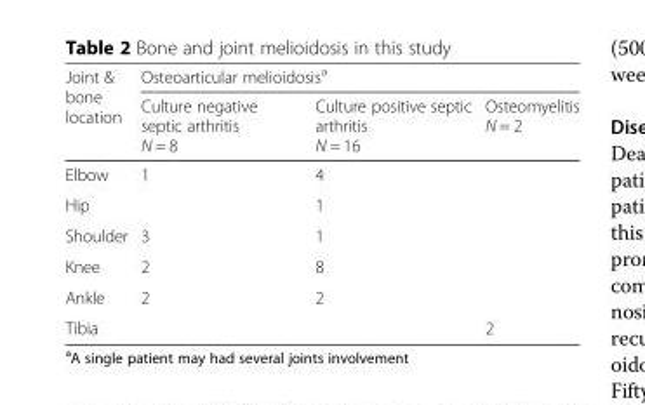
<table><thead><tr><td rowspan="2">Joint &amp; bone location</td><td colspan="3">Osteoarticular melioidosis<sup>a</sup></td></tr><tr><td>Culture negative septic arthritis N = 8</td><td>Culture positive septic arthritis N = 16</td><td>Osteomyelitis N = 2</td></tr></thead><tbody><tr><td>Elbow</td><td>1</td><td>4</td><td></td></tr><tr><td>Hip</td><td></td><td>1</td><td></td></tr><tr><td>Shoulder</td><td>3</td><td>1</td><td></td></tr><tr><td>Knee</td><td>2</td><td>8</td><td></td></tr><tr><td>Ankle</td><td>2</td><td>2</td><td></td></tr><tr><td>Tibia</td><td></td><td></td><td>2</td></tr></tbody></table>